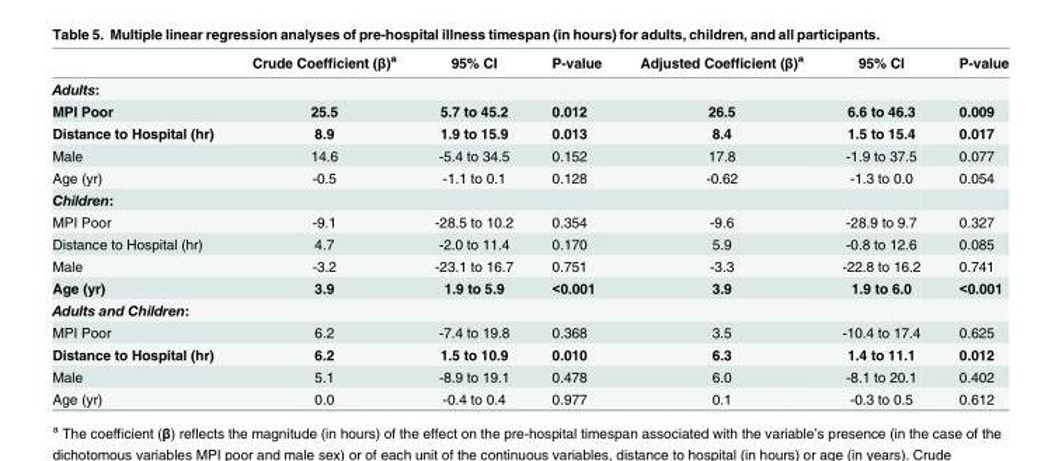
<table><thead><tr><td></td><td>Crude Coefficient (β)<sup>a</sup></td><td>95% CI</td><td>P-value</td><td>Adjusted Coefficient (β)<sup>a</sup></td><td>95% CI</td><td>P-value</td></tr></thead><tbody><tr><td colspan="7">Adults:</td></tr><tr><td>MPI Poor</td><td>25.5</td><td>5.7 to 45.2</td><td>0.012</td><td>26.5</td><td>6.6 to 46.3</td><td>0.009</td></tr><tr><td>Distance to Hospital (hr)</td><td>8.9</td><td>1.9 to 15.9</td><td>0.013</td><td>8.4</td><td>1.5 to 15.4</td><td>0.017</td></tr><tr><td>Male</td><td>14.6</td><td>-5.4 to 34.5</td><td>0.152</td><td>17.8</td><td>-1.9 to 37.5</td><td>0.077</td></tr><tr><td>Age (yr)</td><td>-0.5</td><td>-1.1 to 0.1</td><td>0.128</td><td>-0.62</td><td>-1.3 to 0.0</td><td>0.054</td></tr><tr><td colspan="7">Children:</td></tr><tr><td>MPI Poor</td><td>-9.1</td><td>-28.5 to 10.2</td><td>0.354</td><td>-9.6</td><td>-28.9 to 9.7</td><td>0.327</td></tr><tr><td>Distance to Hospital (hr)</td><td>4.7</td><td>-2.0 to 11.4</td><td>0.170</td><td>5.9</td><td>-0.8 to 12.6</td><td>0.085</td></tr><tr><td>Male</td><td>-3.2</td><td>-23.1 to 16.7</td><td>0.751</td><td>-3.3</td><td>-22.8 to 16.2</td><td>0.741</td></tr><tr><td>Age (yr)</td><td>3.9</td><td>1.9 to 5.9</td><td>&lt;0.001</td><td>3.9</td><td>1.9 to 6.0</td><td>&lt;0.001</td></tr><tr><td colspan="7">Adults and Children:</td></tr><tr><td>MPI Poor</td><td>6.2</td><td>-7.4 to 19.8</td><td>0.368</td><td>3.5</td><td>-10.4 to 17.4</td><td>0.625</td></tr><tr><td>Distance to Hospital (hr)</td><td>6.2</td><td>1.5 to 10.9</td><td>0.010</td><td>6.3</td><td>1.4 to 11.1</td><td>0.012</td></tr><tr><td>Male</td><td>5.1</td><td>-8.9 to 19.1</td><td>0.478</td><td>6.0</td><td>-8.1 to 20.1</td><td>0.402</td></tr><tr><td>Age (yr)</td><td>0.0</td><td>-0.4 to 0.4</td><td>0.977</td><td>0.1</td><td>-0.3 to 0.5</td><td>0.612</td></tr></tbody></table>